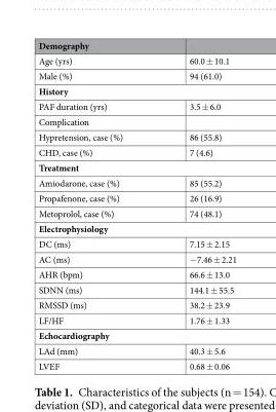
<table><thead><tr><td>Demography</td><td></td></tr></thead><tbody><tr><td>Age (yrs)</td><td>60.0 ± 10.1</td></tr><tr><td>Male (%)</td><td>94 (61.0)</td></tr><tr><td colspan="2">History</td></tr><tr><td>PAF duration (yrs)</td><td>3.5 ± 6.0</td></tr><tr><td colspan="2">Complication</td></tr><tr><td>Hypretension, case (%)</td><td>86 (55.8)</td></tr><tr><td>CHD, case (%)</td><td>7 (4.6)</td></tr><tr><td colspan="2">Treatment</td></tr><tr><td>Amiodarone, case (%)</td><td>85 (55.2)</td></tr><tr><td>Propafenone, case (%)</td><td>26 (16.9)</td></tr><tr><td>Metoprolol, case (%)</td><td>74 (48.1)</td></tr><tr><td colspan="2">Electrophysiology</td></tr><tr><td>DC (ms)</td><td>7.15 ± 2.15</td></tr><tr><td>AC (ms)</td><td>−7.46 ± 2.21</td></tr><tr><td>AHR (bpm)</td><td>66.6 ± 13.0</td></tr><tr><td>SDNN (ms)</td><td>144.1 ± 55.5</td></tr><tr><td>RMSSD (ms)</td><td>38.2 ± 23.9</td></tr><tr><td>LF/HF</td><td>1.76 ± 1.33</td></tr><tr><td colspan="2">Echocardiography</td></tr><tr><td>LAd (mm)</td><td>40.3 ± 5.6</td></tr><tr><td>LVEF</td><td>0.68 ± 0.06</td></tr></tbody></table>